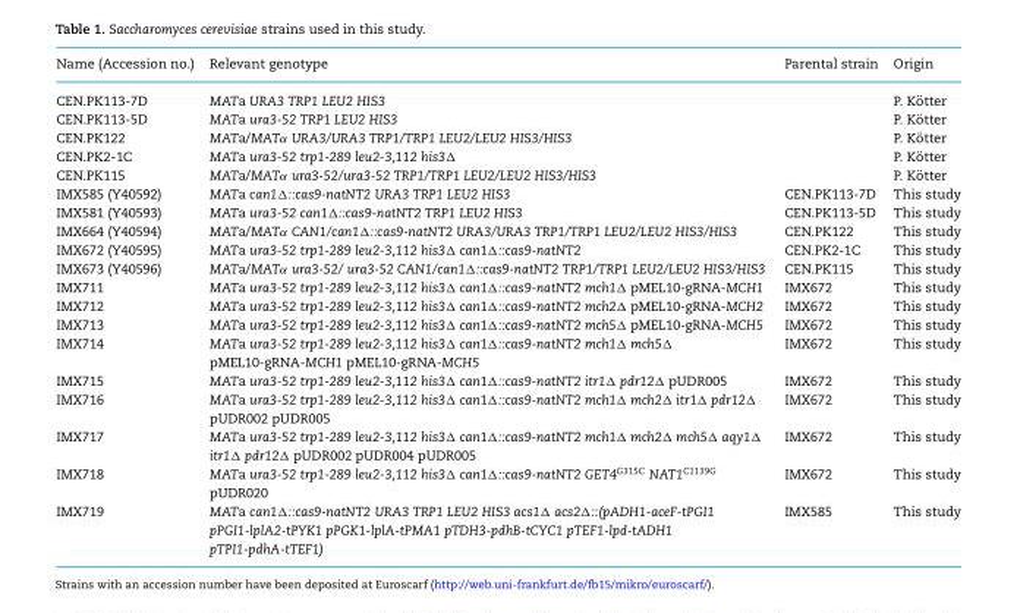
<table><thead><tr><td>Name (Accession no.)</td><td>Relevant genotype</td><td>Parental strain</td><td>Origin</td></tr></thead><tbody><tr><td>CEN.PK113-7D</td><td>MATa URA3 TRP1 LEU2 HIS3</td><td></td><td>P. K¨otter</td></tr><tr><td>CEN.PK113-5D</td><td>MATa ura3-52 TRP1 LEU2 HIS3</td><td></td><td>P. K¨otter</td></tr><tr><td>CEN.PK122</td><td>MATa/MATα URA3/URA3 TRP1/TRP1 LEU2/LEU2 HIS3/HIS3</td><td></td><td>P. K¨otter</td></tr><tr><td>CEN.PK2-1C</td><td>MATa ura3-52 trp1-289 leu2-3,112 his3Δ</td><td></td><td>P. K¨otter</td></tr><tr><td>CEN.PK115</td><td>MATa/MATα ura3-52/ura3-52 TRP1/TRP1 LEU2/LEU2 HIS3/HIS3</td><td></td><td>P. K¨otter</td></tr><tr><td>IMX585 (Y40592)</td><td>MATa can1Δ::cas9-natNT2 URA3 TRP1 LEU2 HIS3</td><td>CEN.PK113-7D</td><td>This study</td></tr><tr><td>IMX581 (Y40593)</td><td>MATa ura3-52 can1Δ::cas9-natNT2 TRP1 LEU2 HIS3</td><td>CEN.PK113-5D</td><td>This study</td></tr><tr><td>IMX664 (Y40594)</td><td>MATa/MATα CAN1/can1Δ::cas9-natNT2 URA3/URA3 TRP1/TRP1 LEU2/LEU2 HIS3/HIS3</td><td>CEN.PK122</td><td>This study</td></tr><tr><td>IMX672 (Y40595)</td><td>MATa ura3-52 trp1-289 leu2-3,112 his3Δ can1Δ::cas9-natNT2</td><td>CEN.PK2-1C</td><td>This study</td></tr><tr><td>IMX673 (Y40596)</td><td>MATa/MATα ura3-52/ ura3-52 CAN1/can1Δ::cas9-natNT2 TRP1/TRP1 LEU2/LEU2 HIS3/HIS3</td><td>CEN.PK115</td><td>This study</td></tr><tr><td>IMX711</td><td>MATa ura3-52 trp1-289 leu2-3,112 his3Δ can1Δ::cas9-natNT2 mch1Δ pMEL10-gRNA-MCH1</td><td>IMX672</td><td>This study</td></tr><tr><td>IMX712</td><td>MATa ura3-52 trp1-289 leu2-3,112 his3Δ can1Δ::cas9-natNT2 mch2Δ pMEL10-gRNA-MCH2</td><td>IMX672</td><td>This study</td></tr><tr><td>IMX713</td><td>MATa ura3-52 trp1-289 leu2-3,112 his3Δ can1Δ::cas9-natNT2 mch5Δ pMEL10-gRNA-MCH5</td><td>IMX672</td><td>This study</td></tr><tr><td>IMX714</td><td>MATa ura3-52 trp1-289 leu2-3,112 his3Δ can1Δ::cas9-natNT2 mch1Δ mch5Δ pMEL10-gRNA-MCH1 pMEL10-gRNA-MCH5</td><td>IMX672</td><td>This study</td></tr><tr><td>IMX715</td><td>MATa ura3-52 trp1-289 leu2-3,112 his3Δ can1Δ::cas9-natNT2 itr1Δ pdr12Δ pUDR005</td><td>IMX672</td><td>This study</td></tr><tr><td>IMX716</td><td>MATa ura3-52 trp1-289 leu2-3,112 his3Δ can1Δ::cas9-natNT2 mch1Δ mch2Δ itr1Δ pdr12Δ pUDR002 pUDR005</td><td>IMX672</td><td>This study</td></tr><tr><td>IMX717</td><td>MATa ura3-52 trp1-289 leu2-3,112 his3Δ can1Δ::cas9-natNT2 mch1Δ mch2Δ mch5Δ aqy1Δ itr1Δ pdr12Δ pUDR002 pUDR004 pUDR005</td><td>IMX672</td><td>This study</td></tr><tr><td>IMX718</td><td>MATa ura3-52 trp1-289 leu2-3,112 his3Δ can1Δ::cas9-natNT2 GET4<sup>G315C</sup> NAT1<sup>C1139G</sup> pUDR020</td><td>IMX672</td><td>This study</td></tr><tr><td>IMX719</td><td>MATa can1Δ::cas9-natNT2 URA3 TRP1 LEU2 HIS3 acs1Δ acs2Δ::(pADH1-aceF-tPGI1 pPGI1-lplA2-tPYK1 pPGK1-lplA-tPMA1 pTDH3-pdhB-tCYC1 pTEF1-lpd-tADH1 pTPI1-pdhA-tTEF1)</td><td>IMX585</td><td>This study</td></tr></tbody></table>